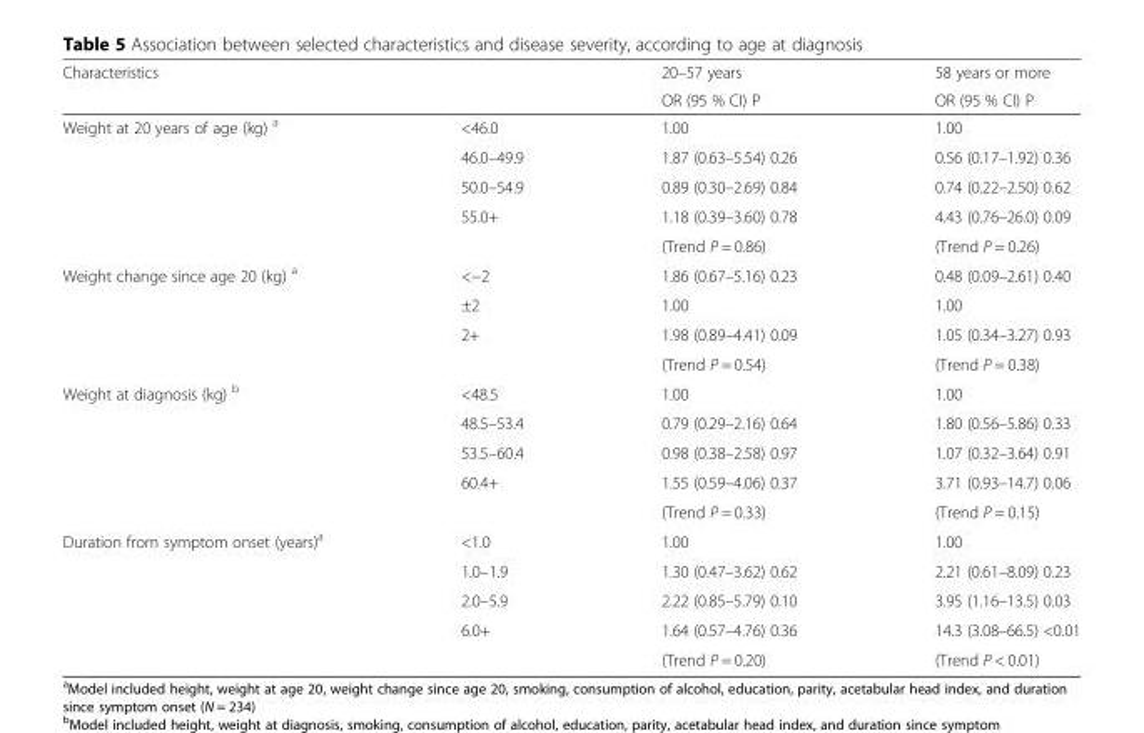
<table><thead><tr><td rowspan="2" colspan="2">Characteristics</td><td rowspan="3">20–57 years OR (95 % CI) P 1.00</td><td rowspan="3">58 years or more OR (95 % CI) P 1.00</td></tr><tr></tr><tr><td>Weight at 20 years of age (kg) <sup>a</sup></td><td>&lt;46.0</td></tr></thead><tbody><tr><td></td><td>46.0–49.9</td><td>1.87 (0.63–5.54) 0.26</td><td>0.56 (0.17–1.92) 0.36</td></tr><tr><td></td><td>50.0–54.9</td><td>0.89 (0.30–2.69) 0.84</td><td>0.74 (0.22–2.50) 0.62</td></tr><tr><td></td><td>55.0+</td><td>1.18 (0.39–3.60) 0.78</td><td>4.43 (0.76–26.0) 0.09</td></tr><tr><td></td><td></td><td>(Trend P = 0.86)</td><td>(Trend P = 0.26)</td></tr><tr><td rowspan="4">Weight change since age 20 (kg) <sup>a</sup></td><td>&lt;−2</td><td>1.86 (0.67–5.16) 0.23</td><td>0.48 (0.09–2.61) 0.40</td></tr><tr><td>±2</td><td>1.00</td><td>1.00</td></tr><tr><td>2+</td><td>1.98 (0.89–4.41) 0.09</td><td>1.05 (0.34–3.27) 0.93</td></tr><tr><td></td><td>(Trend P = 0.54)</td><td>(Trend P = 0.38)</td></tr><tr><td rowspan="5">Weight at diagnosis (kg) <sup>b</sup></td><td>&lt;48.5</td><td>1.00</td><td>1.00</td></tr><tr><td>48.5–53.4</td><td>0.79 (0.29–2.16) 0.64</td><td>1.80 (0.56–5.86) 0.33</td></tr><tr><td>53.5–60.4</td><td>0.98 (0.38–2.58) 0.97</td><td>1.07 (0.32–3.64) 0.91</td></tr><tr><td>60.4+</td><td>1.55 (0.59–4.06) 0.37</td><td>3.71 (0.93–14.7) 0.06</td></tr><tr><td></td><td>(Trend P = 0.33)</td><td>(Trend P = 0.15)</td></tr><tr><td rowspan="5">Duration from symptom onset (years)<sup>a</sup></td><td>&lt;1.0</td><td>1.00</td><td>1.00</td></tr><tr><td>1.0–1.9</td><td>1.30 (0.47–3.62) 0.62</td><td>2.21 (0.61–8.09) 0.23</td></tr><tr><td>2.0–5.9</td><td>2.22 (0.85–5.79) 0.10</td><td>3.95 (1.16–13.5) 0.03</td></tr><tr><td>6.0+</td><td>1.64 (0.57–4.76) 0.36</td><td>14.3 (3.08–66.5) &lt;0.01</td></tr><tr><td></td><td>(Trend P = 0.20)</td><td>(Trend P &lt; 0.01)</td></tr></tbody></table>